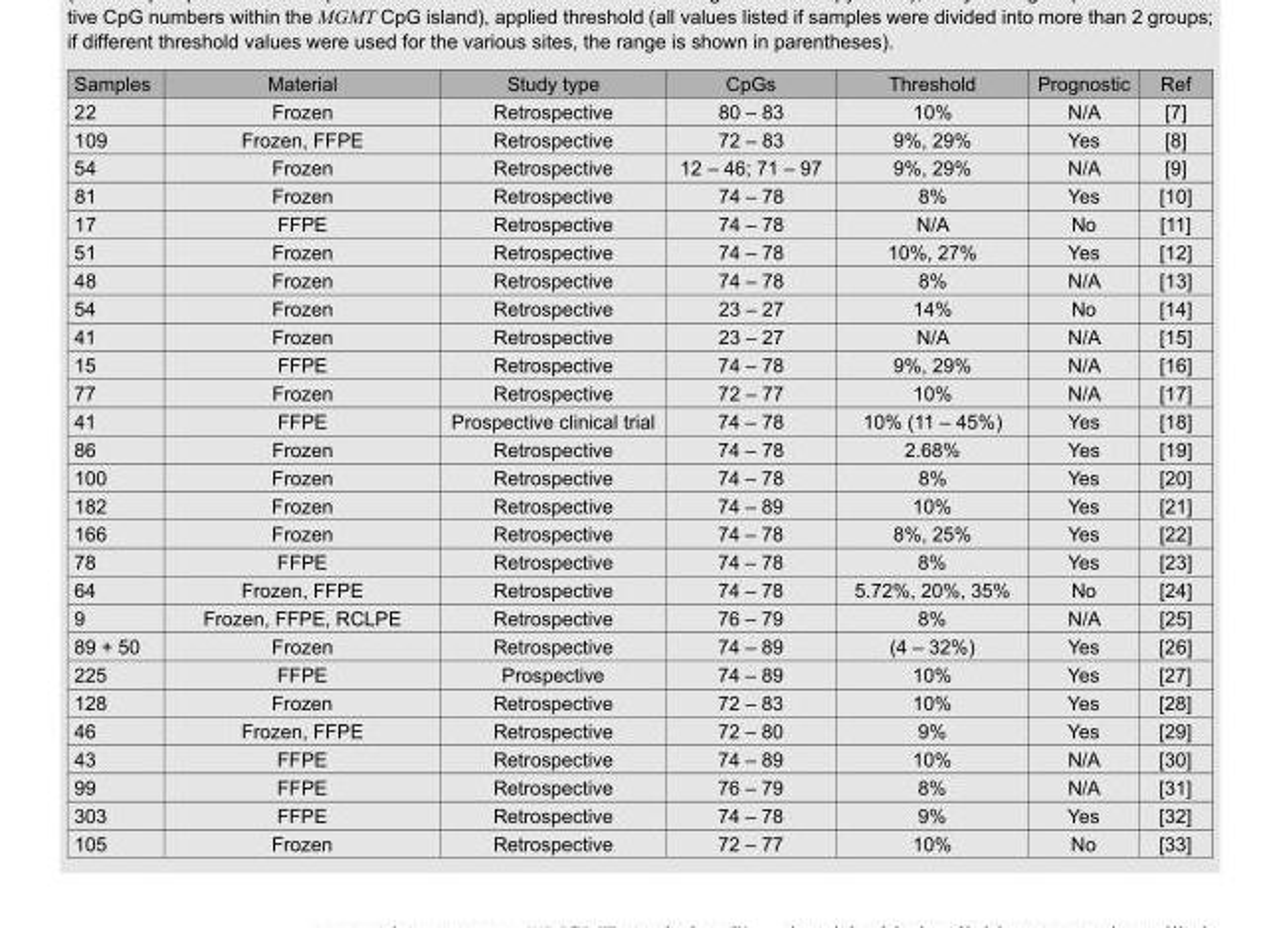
<table><thead><tr><td>Samples</td><td>Material</td><td>Study type</td><td>CpGs</td><td>Threshold</td><td>Prognostic</td><td>Ref</td></tr></thead><tbody><tr><td>22</td><td>Frozen</td><td>Retrospective</td><td>80 – 83</td><td>10%</td><td>N/A</td><td>[7]</td></tr><tr><td>109</td><td>Frozen, FFPE</td><td>Retrospective</td><td>72 – 83</td><td>9%, 29%</td><td>Yes</td><td>[8]</td></tr><tr><td>54</td><td>Frozen</td><td>Retrospective</td><td>12 – 46; 71 – 97</td><td>9%, 29%</td><td>N/A</td><td>[9]</td></tr><tr><td>81</td><td>Frozen</td><td>Retrospective</td><td>74 – 78</td><td>8%</td><td>Yes</td><td>[10]</td></tr><tr><td>17</td><td>FFPE</td><td>Retrospective</td><td>74 – 78</td><td>N/A</td><td>No</td><td>[11]</td></tr><tr><td>51</td><td>Frozen</td><td>Retrospective</td><td>74 – 78</td><td>10%, 27%</td><td>Yes</td><td>[12]</td></tr><tr><td>48</td><td>Frozen</td><td>Retrospective</td><td>74 – 78</td><td>8%</td><td>N/A</td><td>[13]</td></tr><tr><td>54</td><td>Frozen</td><td>Retrospective</td><td>23 – 27</td><td>14%</td><td>No</td><td>[14]</td></tr><tr><td>41</td><td>Frozen</td><td>Retrospective</td><td>23 – 27</td><td>N/A</td><td>N/A</td><td>[15]</td></tr><tr><td>15</td><td>FFPE</td><td>Retrospective</td><td>74 – 78</td><td>9%, 29%</td><td>N/A</td><td>[16]</td></tr><tr><td>77</td><td>Frozen</td><td>Retrospective</td><td>72 – 77</td><td>10%</td><td>N/A</td><td>[17]</td></tr><tr><td>41</td><td>FFPE</td><td>Prospective clinical trial</td><td>74 – 78</td><td>10% (11 – 45%)</td><td>Yes</td><td>[18]</td></tr><tr><td>86</td><td>Frozen</td><td>Retrospective</td><td>74 – 78</td><td>2.68%</td><td>Yes</td><td>[19]</td></tr><tr><td>100</td><td>Frozen</td><td>Retrospective</td><td>74 – 78</td><td>8%</td><td>Yes</td><td>[20]</td></tr><tr><td>182</td><td>Frozen</td><td>Retrospective</td><td>74 – 89</td><td>10%</td><td>Yes</td><td>[21]</td></tr><tr><td>166</td><td>Frozen</td><td>Retrospective</td><td>74 – 78</td><td>8%, 25%</td><td>Yes</td><td>[22]</td></tr><tr><td>78</td><td>FFPE</td><td>Retrospective</td><td>74 – 78</td><td>8%</td><td>Yes</td><td>[23]</td></tr><tr><td>64</td><td>Frozen, FFPE</td><td>Retrospective</td><td>74 – 78</td><td>5.72%, 20%, 35%</td><td>No</td><td>[24]</td></tr><tr><td>9</td><td>Frozen, FFPE, RCLPE</td><td>Retrospective</td><td>76 – 79</td><td>8%</td><td>N/A</td><td>[25]</td></tr><tr><td>89 + 50</td><td>Frozen</td><td>Retrospective</td><td>74 – 89</td><td>(4 – 32%)</td><td>Yes</td><td>[26]</td></tr><tr><td>225</td><td>FFPE</td><td>Prospective</td><td>74 – 89</td><td>10%</td><td>Yes</td><td>[27]</td></tr><tr><td>128</td><td>Frozen</td><td>Retrospective</td><td>72 – 83</td><td>10%</td><td>Yes</td><td>[28]</td></tr><tr><td>46</td><td>Frozen, FFPE</td><td>Retrospective</td><td>72 – 80</td><td>9%</td><td>Yes</td><td>[29]</td></tr><tr><td>43</td><td>FFPE</td><td>Retrospective</td><td>74 – 89</td><td>10%</td><td>N/A</td><td>[30]</td></tr><tr><td>99</td><td>FFPE</td><td>Retrospective</td><td>76 – 79</td><td>8%</td><td>N/A</td><td>[31]</td></tr><tr><td>303</td><td>FFPE</td><td>Retrospective</td><td>74 – 78</td><td>9%</td><td>Yes</td><td>[32]</td></tr><tr><td>105</td><td>Frozen</td><td>Retrospective</td><td>72 – 77</td><td>10%</td><td>No</td><td>[33]</td></tr></tbody></table>